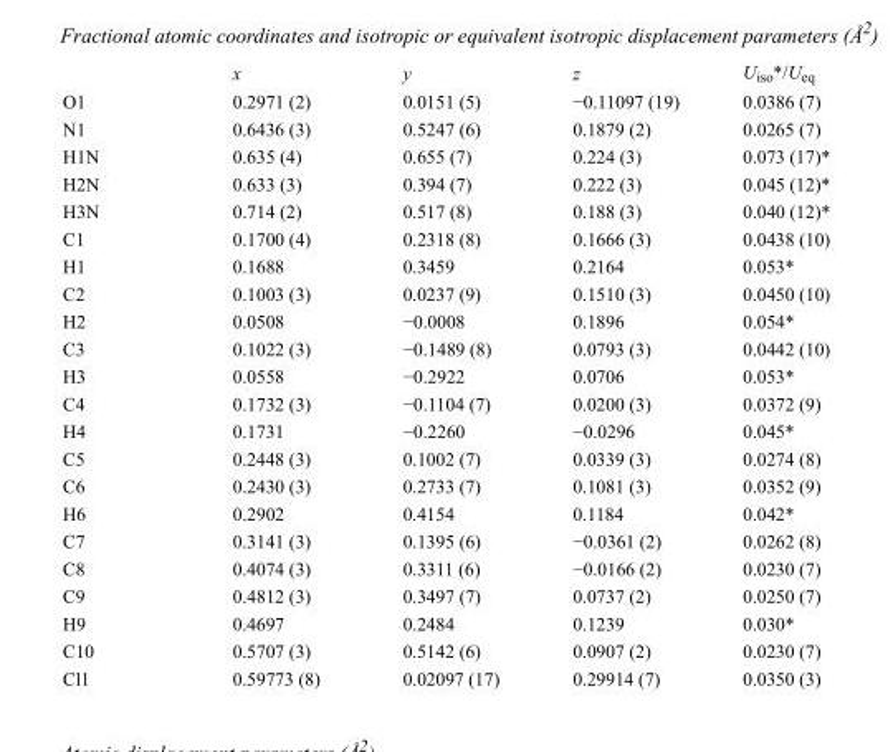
<table><thead><tr><td></td><td>x</td><td>y</td><td>z</td><td>U<sub>iso</sub>*/U<sub>eq</sub></td></tr></thead><tbody><tr><td>O1</td><td>0.2971 (2)</td><td>0.0151 (5)</td><td>−0.11097 (19)</td><td>0.0386 (7)</td></tr><tr><td>N1</td><td>0.6436 (3)</td><td>0.5247 (6)</td><td>0.1879 (2)</td><td>0.0265 (7)</td></tr><tr><td>H1N</td><td>0.635 (4)</td><td>0.655 (7)</td><td>0.224 (3)</td><td>0.073 (17)*</td></tr><tr><td>H2N</td><td>0.633 (3)</td><td>0.394 (7)</td><td>0.222 (3)</td><td>0.045 (12)*</td></tr><tr><td>H3N</td><td>0.714 (2)</td><td>0.517 (8)</td><td>0.188 (3)</td><td>0.040 (12)*</td></tr><tr><td>C1</td><td>0.1700 (4)</td><td>0.2318 (8)</td><td>0.1666 (3)</td><td>0.0438 (10)</td></tr><tr><td>H1</td><td>0.1688</td><td>0.3459</td><td>0.2164</td><td>0.053*</td></tr><tr><td>C2</td><td>0.1003 (3)</td><td>0.0237 (9)</td><td>0.1510 (3)</td><td>0.0450 (10)</td></tr><tr><td>H2</td><td>0.0508</td><td>−0.0008</td><td>0.1896</td><td>0.054*</td></tr><tr><td>C3</td><td>0.1022 (3)</td><td>−0.1489 (8)</td><td>0.0793 (3)</td><td>0.0442 (10)</td></tr><tr><td>H3</td><td>0.0558</td><td>−0.2922</td><td>0.0706</td><td>0.053*</td></tr><tr><td>C4</td><td>0.1732 (3)</td><td>−0.1104 (7)</td><td>0.0200 (3)</td><td>0.0372 (9)</td></tr><tr><td>H4</td><td>0.1731</td><td>−0.2260</td><td>−0.0296</td><td>0.045*</td></tr><tr><td>C5</td><td>0.2448 (3)</td><td>0.1002 (7)</td><td>0.0339 (3)</td><td>0.0274 (8)</td></tr><tr><td>C6</td><td>0.2430 (3)</td><td>0.2733 (7)</td><td>0.1081 (3)</td><td>0.0352 (9)</td></tr><tr><td>H6</td><td>0.2902</td><td>0.4154</td><td>0.1184</td><td>0.042*</td></tr><tr><td>C7</td><td>0.3141 (3)</td><td>0.1395 (6)</td><td>−0.0361 (2)</td><td>0.0262 (8)</td></tr><tr><td>C8</td><td>0.4074 (3)</td><td>0.3311 (6)</td><td>−0.0166 (2)</td><td>0.0230 (7)</td></tr><tr><td>C9</td><td>0.4812 (3)</td><td>0.3497 (7)</td><td>0.0737 (2)</td><td>0.0250 (7)</td></tr><tr><td>H9</td><td>0.4697</td><td>0.2484</td><td>0.1239</td><td>0.030*</td></tr><tr><td>C10</td><td>0.5707 (3)</td><td>0.5142 (6)</td><td>0.0907 (2)</td><td>0.0230 (7)</td></tr><tr><td>Cl1</td><td>0.59773 (8)</td><td>0.02097 (17)</td><td>0.29914 (7)</td><td>0.0350 (3)</td></tr></tbody></table>